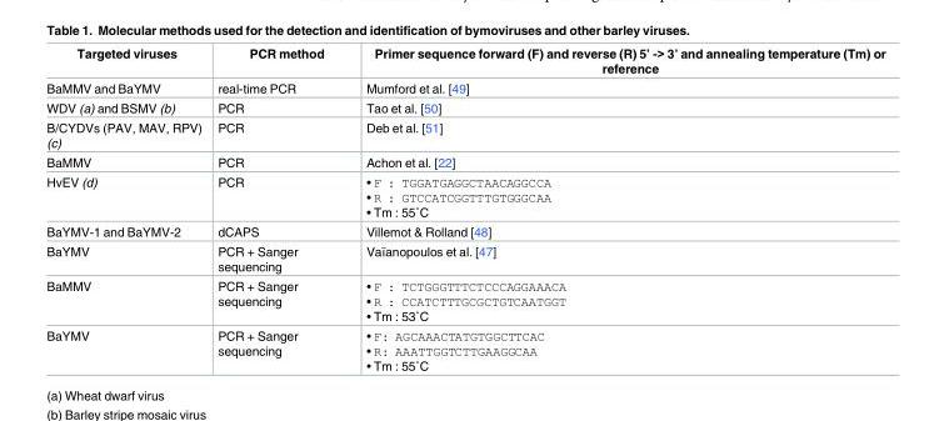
<table><thead><tr><td>Targeted viruses</td><td>PCR method</td><td>Primer sequence forward (F) and reverse (R) 5’ -&gt; 3’ and annealing temperature (Tm) or reference</td></tr></thead><tbody><tr><td>BaMMV and BaYMV</td><td>real-time PCR</td><td>Mumford et al. [49]</td></tr><tr><td>WDV (a) and BSMV (b)</td><td>PCR</td><td>Tao et al. [50]</td></tr><tr><td>B/CYDVs (PAV, MAV, RPV) (c)</td><td>PCR</td><td>Deb et al. [51]</td></tr><tr><td>BaMMV</td><td>PCR</td><td>Achon et al. [22]</td></tr><tr><td>HvEV (d)</td><td>PCR</td><td>• F : TGGATGAGGCTAACAGGCCA • R : GTCCATCGGTTTGTGGGCAA • Tm : 55˚C</td></tr><tr><td>BaYMV-1 and BaYMV-2</td><td>dCAPS</td><td>Villemot &amp; Rolland [48]</td></tr><tr><td>BaYMV</td><td>PCR + Sanger sequencing</td><td>Vaïanopoulos et al. [47]</td></tr><tr><td>BaMMV</td><td>PCR + Sanger sequencing</td><td>• F : TCTGGGTTTCTCCCAGGAAACA • R : CCATCTTTGCGCTGTCAATGGT • Tm : 53˚C</td></tr><tr><td>BaYMV</td><td>PCR + Sanger sequencing</td><td>• F: AGCAAACTATGTGGCTTCAC • R: AAATTGGTCTTGAAGGCAA • Tm : 55˚C</td></tr></tbody></table>